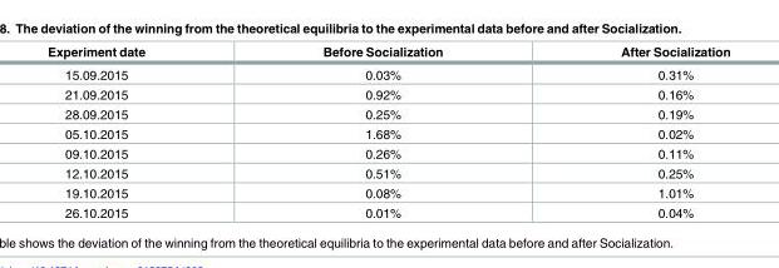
<table><thead><tr><td>Experiment date</td><td>Before Socialization</td><td>After Socialization</td></tr></thead><tbody><tr><td>15.09.2015</td><td>0.03%</td><td>0.31%</td></tr><tr><td>21.09.2015</td><td>0.92%</td><td>0.16%</td></tr><tr><td>28.09.2015</td><td>0.25%</td><td>0.19%</td></tr><tr><td>05.10.2015</td><td>1.68%</td><td>0.02%</td></tr><tr><td>09.10.2015</td><td>0.26%</td><td>0.11%</td></tr><tr><td>12.10.2015</td><td>0.51%</td><td>0.25%</td></tr><tr><td>19.10.2015</td><td>0.08%</td><td>1.01%</td></tr><tr><td>26.10.2015</td><td>0.01%</td><td>0.04%</td></tr></tbody></table>